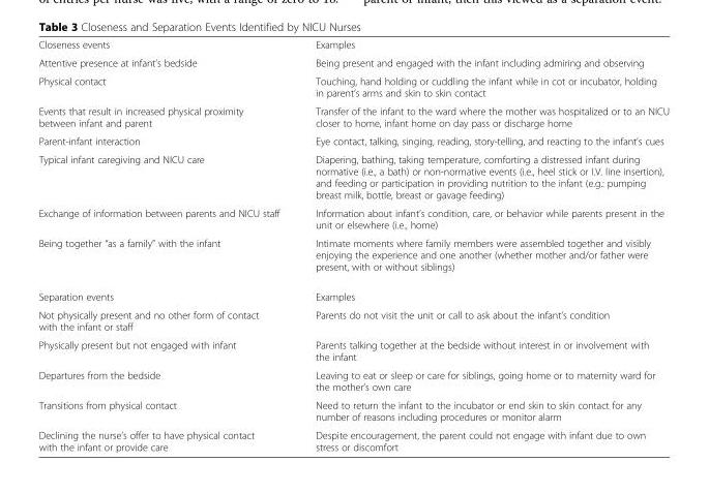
<table><tbody><tr><td>Closeness events</td><td>Examples</td></tr><tr><td>Attentive presence at infant’s bedside</td><td>Being present and engaged with the infant including admiring and observing</td></tr><tr><td>Physical contact</td><td>Touching, hand holding or cuddling the infant while in cot or incubator, holding in parent’s arms and skin to skin contact</td></tr><tr><td>Events that result in increased physical proximity between infant and parent</td><td>Transfer of the infant to the ward where the mother was hospitalized or to an NICU closer to home, infant home on day pass or discharge home</td></tr><tr><td>Parent-infant interaction</td><td>Eye contact, talking, singing, reading, story-telling, and reacting to the infant’s cues</td></tr><tr><td>Typical infant caregiving and NICU care</td><td>Diapering, bathing, taking temperature, comforting a distressed infant during normative (i.e., a bath) or non-normative events (i.e., heel stick or I.V. line insertion), and feeding or participation in providing nutrition to the infant (e.g.: pumping breast milk, bottle, breast or gavage feeding)</td></tr><tr><td>Exchange of information between parents and NICU staff</td><td>Information about infant’s condition, care, or behavior while parents present in the unit or elsewhere (i.e., home)</td></tr><tr><td>Being together “as a family” with the infant</td><td>Intimate moments where family members were assembled together and visibly enjoying the experience and one another (whether mother and/or father were present, with or without siblings)</td></tr><tr><td>Separation events</td><td>Examples</td></tr><tr><td>Not physically present and no other form of contact with the infant or staff</td><td>Parents do not visit the unit or call to ask about the infant’s condition</td></tr><tr><td>Physically present but not engaged with infant</td><td>Parents talking together at the bedside without interest in or involvement with the infant</td></tr><tr><td>Departures from the bedside</td><td>Leaving to eat or sleep or care for siblings, going home or to maternity ward for the mother’s own care</td></tr><tr><td>Transitions from physical contact</td><td>Need to return the infant to the incubator or end skin to skin contact for any number of reasons including procedures or monitor alarm</td></tr><tr><td>Declining the nurse’s offer to have physical contact with the infant or provide care</td><td>Despite encouragement, the parent could not engage with infant due to own stress or discomfort</td></tr></tbody></table>